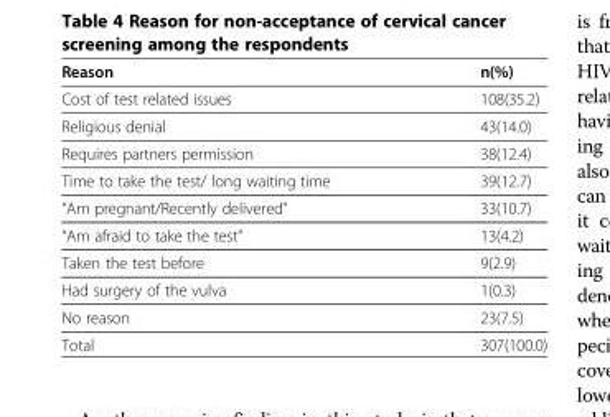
<table><thead><tr><td>Reason</td><td>n(%)</td></tr></thead><tbody><tr><td>Cost of test related issues</td><td>108(35.2)</td></tr><tr><td>Religious denial</td><td>43(14.0)</td></tr><tr><td>Requires partners permission</td><td>38(12.4)</td></tr><tr><td>Time to take the test/ long waiting time</td><td>39(12.7)</td></tr><tr><td>“Am pregnant/Recently delivered”</td><td>33(10.7)</td></tr><tr><td>“Am afraid to take the test”</td><td>13(4.2)</td></tr><tr><td>Taken the test before</td><td>9(2.9)</td></tr><tr><td>Had surgery of the vulva</td><td>1(0.3)</td></tr><tr><td>No reason</td><td>23(7.5)</td></tr><tr><td>Total</td><td>307(100.0)</td></tr></tbody></table>